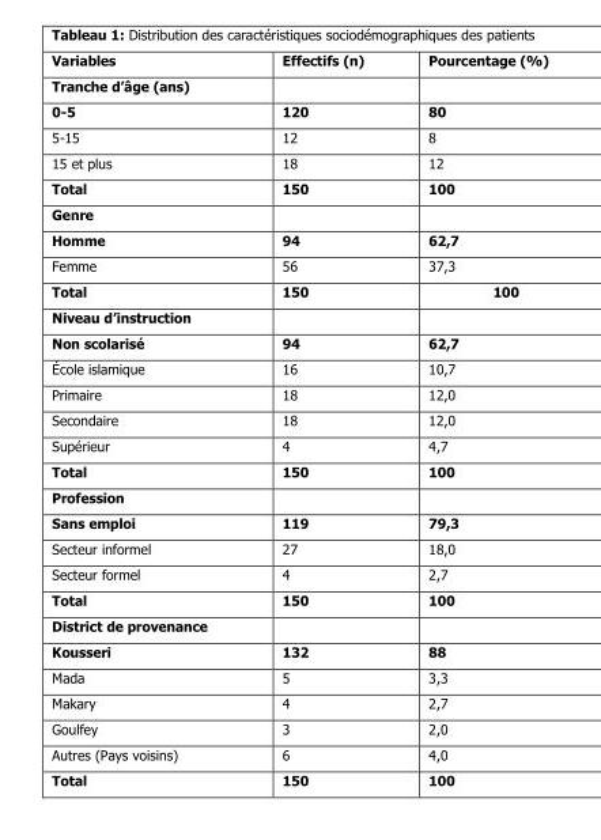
<table><thead><tr><td>Variables</td><td>Effectifs (n)</td><td>Pourcentage (%)</td></tr></thead><tbody><tr><td colspan="3">Tranche d’âge (ans)</td></tr><tr><td>0-5</td><td>120</td><td>80</td></tr><tr><td>5-15</td><td>12</td><td>8</td></tr><tr><td>15 et plus</td><td>18</td><td>12</td></tr><tr><td>Total</td><td>150</td><td>100</td></tr><tr><td colspan="3">Genre</td></tr><tr><td>Homme</td><td>94</td><td>62,7</td></tr><tr><td>Femme</td><td>56</td><td>37,3</td></tr><tr><td>Total</td><td>150</td><td>100</td></tr><tr><td colspan="3">Niveau d’instruction</td></tr><tr><td>Non scolarisé</td><td>94</td><td>62,7</td></tr><tr><td>École islamique</td><td>16</td><td>10,7</td></tr><tr><td>Primaire</td><td>18</td><td>12,0</td></tr><tr><td>Secondaire</td><td>18</td><td>12,0</td></tr><tr><td>Supérieur</td><td>4</td><td>4,7</td></tr><tr><td>Total</td><td>150</td><td>100</td></tr><tr><td colspan="3">Profession</td></tr><tr><td>Sans emploi</td><td>119</td><td>79,3</td></tr><tr><td>Secteur informel</td><td>27</td><td>18,0</td></tr><tr><td>Secteur formel</td><td>4</td><td>2,7</td></tr><tr><td>Total</td><td>150</td><td>100</td></tr><tr><td colspan="3">District de provenance</td></tr><tr><td>Kousseri</td><td>132</td><td>88</td></tr><tr><td>Mada</td><td>5</td><td>3,3</td></tr><tr><td>Makary</td><td>4</td><td>2,7</td></tr><tr><td>Goulfey</td><td>3</td><td>2,0</td></tr><tr><td>Autres (Pays voisins)</td><td>6</td><td>4,0</td></tr><tr><td>Total</td><td>150</td><td>100</td></tr></tbody></table>